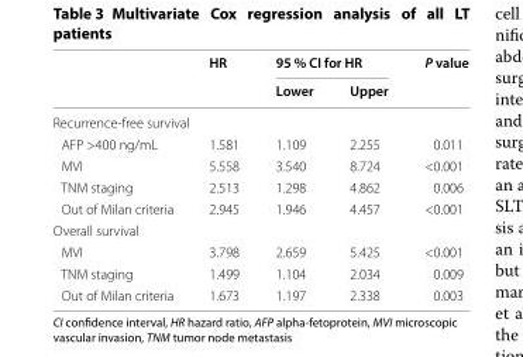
<table><thead><tr><td rowspan="2"></td><td rowspan="2">HR</td><td colspan="2">95 % CI for HR</td><td rowspan="2">P value</td></tr><tr><td>Lower</td><td>Upper</td></tr></thead><tbody><tr><td colspan="5">Recurrence-free survival</td></tr><tr><td>AFP &gt;400 ng/mL</td><td>1.581</td><td>1.109</td><td>2.255</td><td>0.011</td></tr><tr><td>MVI</td><td>5.558</td><td>3.540</td><td>8.724</td><td>&lt;0.001</td></tr><tr><td>TNM staging</td><td>2.513</td><td>1.298</td><td>4.862</td><td>0.006</td></tr><tr><td>Out of Milan criteria</td><td>2.945</td><td>1.946</td><td>4.457</td><td>&lt;0.001</td></tr><tr><td colspan="5">Overall survival</td></tr><tr><td>MVI</td><td>3.798</td><td>2.659</td><td>5.425</td><td>&lt;0.001</td></tr><tr><td>TNM staging</td><td>1.499</td><td>1.104</td><td>2.034</td><td>0.009</td></tr><tr><td>Out of Milan criteria</td><td>1.673</td><td>1.197</td><td>2.338</td><td>0.003</td></tr></tbody></table>